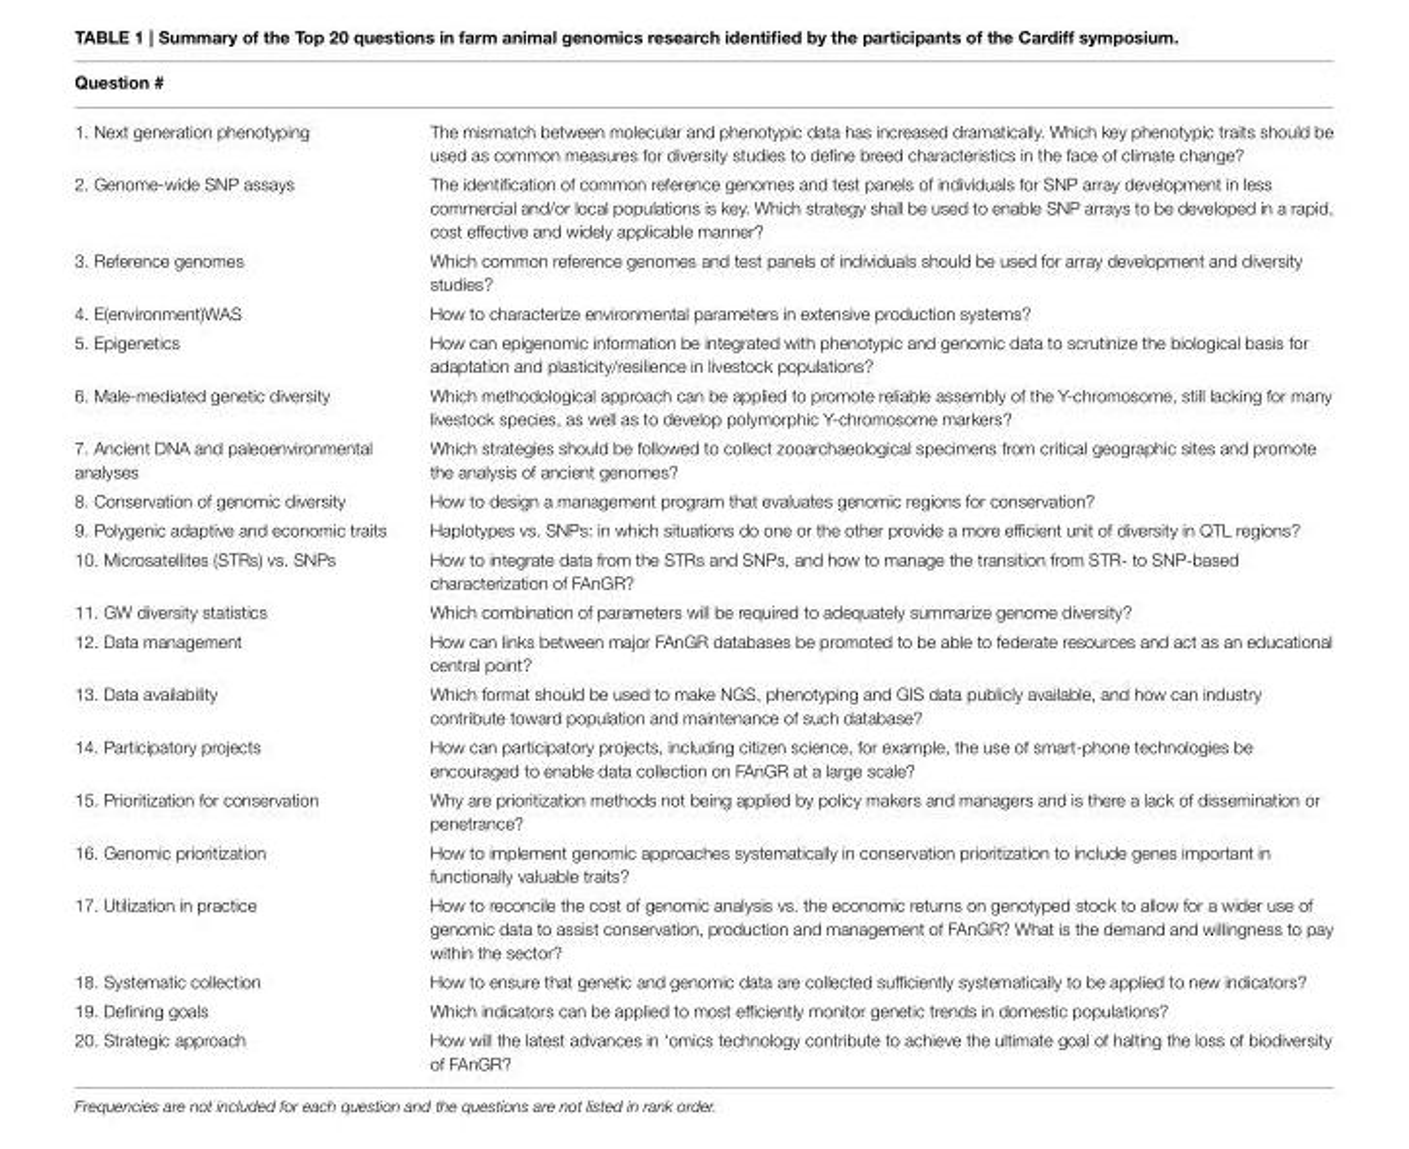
<table><thead><tr><td>Question #</td><td></td></tr></thead><tbody><tr><td>1. Next generation phenotyping</td><td>The mismatch between molecular and phenotypic data has increased dramatically. Which key phenotypic traits should be used as common measures for diversity studies to define breed characteristics in the face of climate change?</td></tr><tr><td>2. Genome-wide SNP assays</td><td>The identification of common reference genomes and test panels of individuals for SNP array development in less commercial and/or local populations is key. Which strategy shall be used to enable SNP arrays to be developed in a rapid, cost effective and widely applicable manner?</td></tr><tr><td>3. Reference genomes</td><td>Which common reference genomes and test panels of individuals should be used for array development and diversity studies?</td></tr><tr><td>4. E(environment)WAS</td><td>How to characterize environmental parameters in extensive production systems?</td></tr><tr><td>5. Epigenetics</td><td>How can epigenomic information be integrated with phenotypic and genomic data to scrutinize the biological basis for adaptation and plasticity/resilience in livestock populations?</td></tr><tr><td>6. Male-mediated genetic diversity</td><td>Which methodological approach can be applied to promote reliable assembly of the Y-chromosome, still lacking for many livestock species, as well as to develop polymorphic Y-chromosome markers?</td></tr><tr><td>7. Ancient DNA and paleoenvironmental analyses</td><td>Which strategies should be followed to collect zooarchaeological specimens from critical geographic sites and promote the analysis of ancient genomes?</td></tr><tr><td>8. Conservation of genomic diversity</td><td>How to design a management program that evaluates genomic regions for conservation?</td></tr><tr><td>9. Polygenic adaptive and economic traits</td><td>Haplotypes vs. SNPs: in which situations do one or the other provide a more efficient unit of diversity in QTL regions?</td></tr><tr><td>10. Microsatellites (STRs) vs. SNPs</td><td>How to integrate data from the STRs and SNPs, and how to manage the transition from STR- to SNP-based characterization of FAnGR?</td></tr><tr><td>11. GW diversity statistics</td><td>Which combination of parameters will be required to adequately summarize genome diversity?</td></tr><tr><td>12. Data management</td><td>How can links between major FAnGR databases be promoted to be able to federate resources and act as an educational central point?</td></tr><tr><td>13. Data availability</td><td>Which format should be used to make NGS, phenotyping and GIS data publicly available, and how can industry contribute toward population and maintenance of such database?</td></tr><tr><td>14. Participatory projects</td><td>How can participatory projects, including citizen science, for example, the use of smart-phone technologies be encouraged to enable data collection on FAnGR at a large scale?</td></tr><tr><td>15. Prioritization for conservation</td><td>Why are prioritization methods not being applied by policy makers and managers and is there a lack of dissemination or penetrance?</td></tr><tr><td>16. Genomic prioritization</td><td>How to implement genomic approaches systematically in conservation prioritization to include genes important in functionally valuable traits?</td></tr><tr><td>17. Utilization in practice</td><td>How to reconcile the cost of genomic analysis vs. the economic returns on genotyped stock to allow for a wider use of genomic data to assist conservation, production and management of FAnGR? What is the demand and willingness to pay within the sector?</td></tr><tr><td>18. Systematic collection</td><td>How to ensure that genetic and genomic data are collected sufficiently systematically to be applied to new indicators?</td></tr><tr><td>19. Defining goals</td><td>Which indicators can be applied to most efficiently monitor genetic trends in domestic populations?</td></tr><tr><td>20. Strategic approach</td><td>How will the latest advances in ‘omics technology contribute to achieve the ultimate goal of halting the loss of biodiversity of FAnGR?</td></tr></tbody></table>